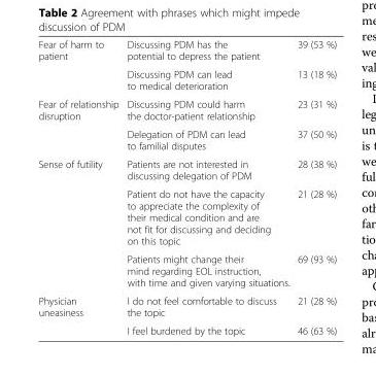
<table><tbody><tr><td rowspan="2">Fear of harm to patient</td><td>Discussing PDM has the potential to depress the patient</td><td>39 (53 %)</td></tr><tr><td>Discussing PDM can lead to medical deterioration</td><td>13 (18 %)</td></tr><tr><td rowspan="2">Fear of relationship disruption</td><td>Discussing PDM could harm the doctor-patient relationship</td><td>23 (31 %)</td></tr><tr><td>Delegation of PDM can lead to familial disputes</td><td>37 (50 %)</td></tr><tr><td rowspan="3">Sense of futility</td><td>Patients are not interested in discussing delegation of PDM</td><td>28 (38 %)</td></tr><tr><td>Patient do not have the capacity to appreciate the complexity of their medical condition and are not fit for discussing and deciding on this topic</td><td>21 (28 %)</td></tr><tr><td>Patients might change their mind regarding EOL instruction, with time and given varying situations.</td><td>69 (93 %)</td></tr><tr><td rowspan="2">Physician uneasiness</td><td>I do not feel comfortable to discuss the topic</td><td>21 (28 %)</td></tr><tr><td>I feel burdened by the topic</td><td>46 (63 %)</td></tr></tbody></table>